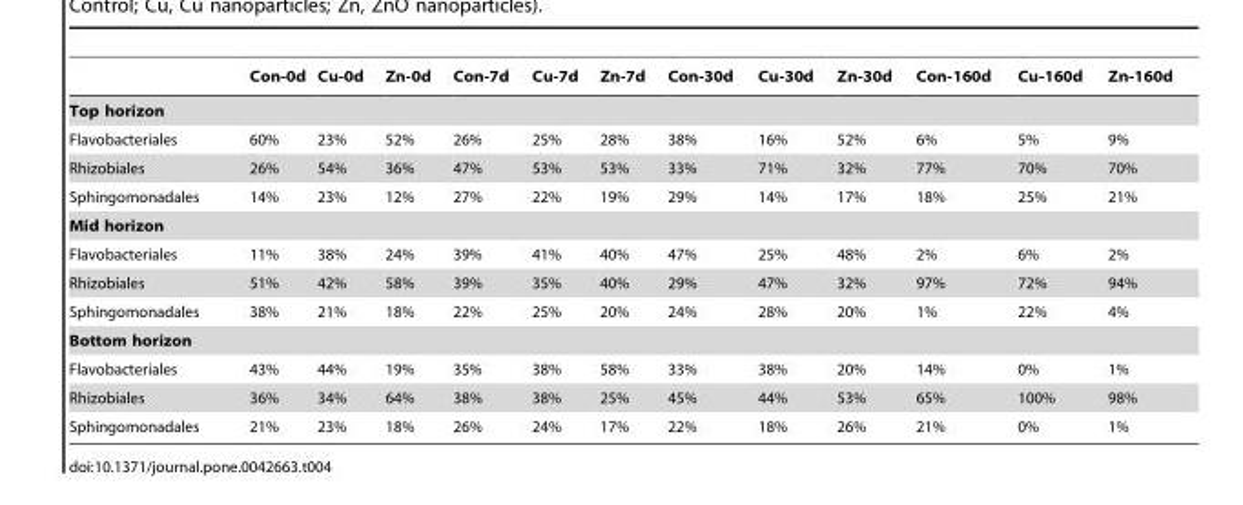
<table><thead><tr><td></td><td>Con-0d</td><td>Cu-0d</td><td>Zn-0d</td><td>Con-7d</td><td>Cu-7d</td><td>Zn-7d</td><td>Con-30d</td><td>Cu-30d</td><td>Zn-30d</td><td>Con-160d</td><td>Cu-160d</td><td>Zn-160d</td></tr></thead><tbody><tr><td colspan="13">Top horizon</td></tr><tr><td>Flavobacteriales</td><td>60%</td><td>23%</td><td>52%</td><td>26%</td><td>25%</td><td>28%</td><td>38%</td><td>16%</td><td>52%</td><td>6%</td><td>5%</td><td>9%</td></tr><tr><td>Rhizobiales</td><td>26%</td><td>54%</td><td>36%</td><td>47%</td><td>53%</td><td>53%</td><td>33%</td><td>71%</td><td>32%</td><td>77%</td><td>70%</td><td>70%</td></tr><tr><td>Sphingomonadales</td><td>14%</td><td>23%</td><td>12%</td><td>27%</td><td>22%</td><td>19%</td><td>29%</td><td>14%</td><td>17%</td><td>18%</td><td>25%</td><td>21%</td></tr><tr><td colspan="13">Mid horizon</td></tr><tr><td>Flavobacteriales</td><td>11%</td><td>38%</td><td>24%</td><td>39%</td><td>41%</td><td>40%</td><td>47%</td><td>25%</td><td>48%</td><td>2%</td><td>6%</td><td>2%</td></tr><tr><td>Rhizobiales</td><td>51%</td><td>42%</td><td>58%</td><td>39%</td><td>35%</td><td>40%</td><td>29%</td><td>47%</td><td>32%</td><td>97%</td><td>72%</td><td>94%</td></tr><tr><td>Sphingomonadales</td><td>38%</td><td>21%</td><td>18%</td><td>22%</td><td>25%</td><td>20%</td><td>24%</td><td>28%</td><td>20%</td><td>1%</td><td>22%</td><td>4%</td></tr><tr><td colspan="13">Bottom horizon</td></tr><tr><td>Flavobacteriales</td><td>43%</td><td>44%</td><td>19%</td><td>35%</td><td>38%</td><td>58%</td><td>33%</td><td>38%</td><td>20%</td><td>14%</td><td>0%</td><td>1%</td></tr><tr><td>Rhizobiales</td><td>36%</td><td>34%</td><td>64%</td><td>38%</td><td>38%</td><td>25%</td><td>45%</td><td>44%</td><td>53%</td><td>65%</td><td>100%</td><td>98%</td></tr><tr><td>Sphingomonadales</td><td>21%</td><td>23%</td><td>18%</td><td>26%</td><td>24%</td><td>17%</td><td>22%</td><td>18%</td><td>26%</td><td>21%</td><td>0%</td><td>1%</td></tr></tbody></table>